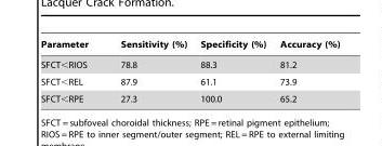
<table><thead><tr><td>Parameter</td><td>Sensitivity (%)</td><td>Specificity (%)</td><td>Accuracy (%)</td></tr></thead><tbody><tr><td>SFCT&lt;RIOS</td><td>78.8</td><td>88.3</td><td>81.2</td></tr><tr><td>SFCT&lt;REL</td><td>87.9</td><td>61.1</td><td>73.9</td></tr><tr><td>SFCT&lt;RPE</td><td>27.3</td><td>100.0</td><td>65.2</td></tr></tbody></table>